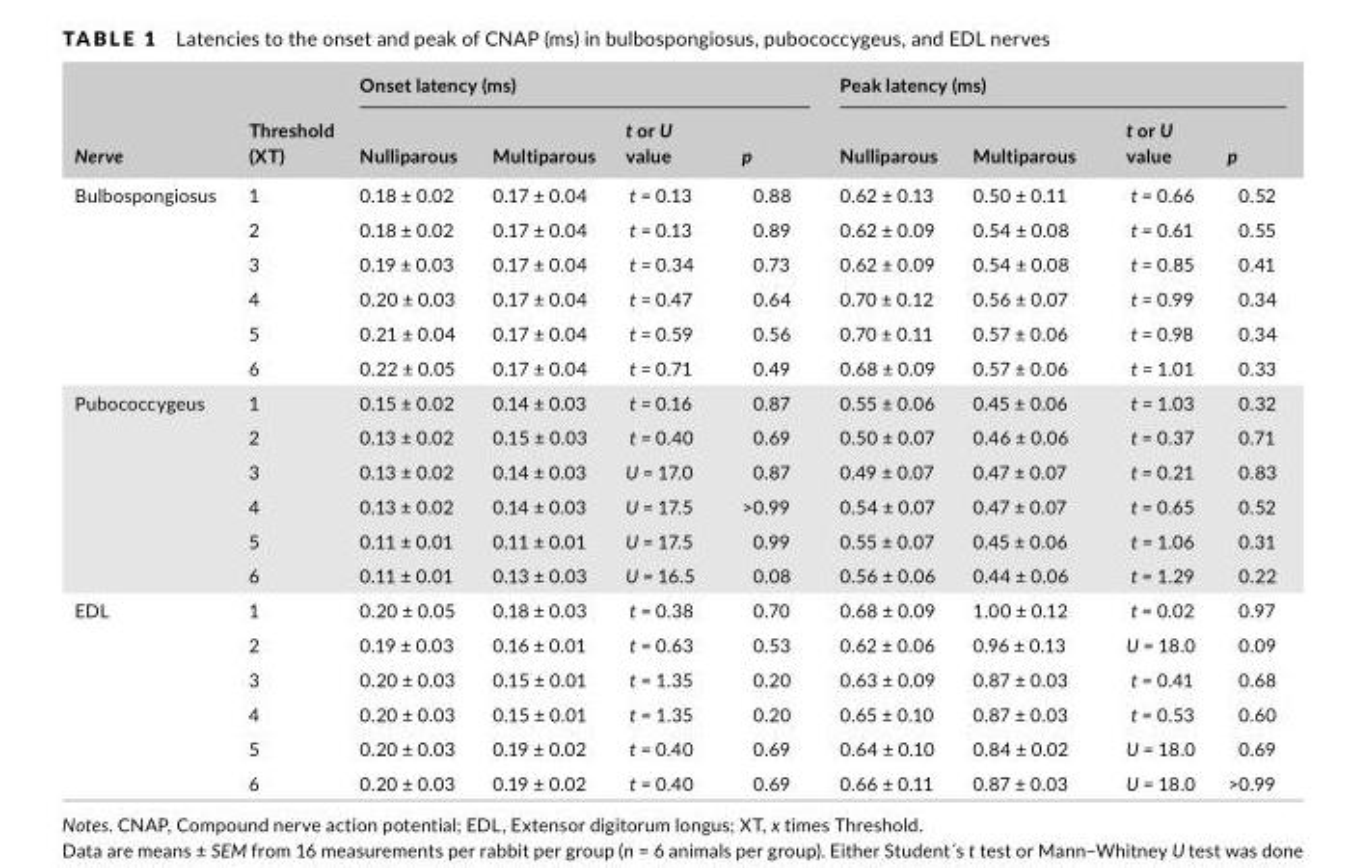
<table><thead><tr><td rowspan="2">Nerve</td><td rowspan="2">Threshold (XT)</td><td colspan="4">Onset latency (ms)</td><td colspan="4">Peak latency (ms)</td></tr><tr><td>Nulliparous</td><td>Multiparous</td><td>t or U value</td><td>p</td><td>Nulliparous</td><td>Multiparous</td><td>t or U value</td><td>p</td></tr></thead><tbody><tr><td rowspan="6">Bulbospongiosus</td><td>1</td><td>0.18 ± 0.02</td><td>0.17 ± 0.04</td><td>t = 0.13</td><td>0.88</td><td>0.62 ± 0.13</td><td>0.50 ± 0.11</td><td>t = 0.66</td><td>0.52</td></tr><tr><td>2</td><td>0.18 ± 0.02</td><td>0.17 ± 0.04</td><td>t = 0.13</td><td>0.89</td><td>0.62 ± 0.09</td><td>0.54 ± 0.08</td><td>t = 0.61</td><td>0.55</td></tr><tr><td>3</td><td>0.19 ± 0.03</td><td>0.17 ± 0.04</td><td>t = 0.34</td><td>0.73</td><td>0.62 ± 0.09</td><td>0.54 ± 0.08</td><td>t = 0.85</td><td>0.41</td></tr><tr><td>4</td><td>0.20 ± 0.03</td><td>0.17 ± 0.04</td><td>t = 0.47</td><td>0.64</td><td>0.70 ± 0.12</td><td>0.56 ± 0.07</td><td>t = 0.99</td><td>0.34</td></tr><tr><td>5</td><td>0.21 ± 0.04</td><td>0.17 ± 0.04</td><td>t = 0.59</td><td>0.56</td><td>0.70 ± 0.11</td><td>0.57 ± 0.06</td><td>t = 0.98</td><td>0.34</td></tr><tr><td>6</td><td>0.22 ± 0.05</td><td>0.17 ± 0.04</td><td>t = 0.71</td><td>0.49</td><td>0.68 ± 0.09</td><td>0.57 ± 0.06</td><td>t = 1.01</td><td>0.33</td></tr><tr><td rowspan="6">Pubococcygeus</td><td>1</td><td>0.15 ± 0.02</td><td>0.14 ± 0.03</td><td>t = 0.16</td><td>0.87</td><td>0.55 ± 0.06</td><td>0.45 ± 0.06</td><td>t = 1.03</td><td>0.32</td></tr><tr><td>2</td><td>0.13 ± 0.02</td><td>0.15 ± 0.03</td><td>t = 0.40</td><td>0.69</td><td>0.50 ± 0.07</td><td>0.46 ± 0.06</td><td>t = 0.37</td><td>0.71</td></tr><tr><td>3</td><td>0.13 ± 0.02</td><td>0.14 ± 0.03</td><td>U = 17.0</td><td>0.87</td><td>0.49 ± 0.07</td><td>0.47 ± 0.07</td><td>t = 0.21</td><td>0.83</td></tr><tr><td>4</td><td>0.13 ± 0.02</td><td>0.14 ± 0.03</td><td>U = 17.5</td><td>&gt;0.99</td><td>0.54 ± 0.07</td><td>0.47 ± 0.07</td><td>t = 0.65</td><td>0.52</td></tr><tr><td>5</td><td>0.11 ± 0.01</td><td>0.11 ± 0.01</td><td>U = 17.5</td><td>0.99</td><td>0.55 ± 0.07</td><td>0.45 ± 0.06</td><td>t = 1.06</td><td>0.31</td></tr><tr><td>6</td><td>0.11 ± 0.01</td><td>0.13 ± 0.03</td><td>U = 16.5</td><td>0.08</td><td>0.56 ± 0.06</td><td>0.44 ± 0.06</td><td>t = 1.29</td><td>0.22</td></tr><tr><td rowspan="6">EDL</td><td>1</td><td>0.20 ± 0.05</td><td>0.18 ± 0.03</td><td>t = 0.38</td><td>0.70</td><td>0.68 ± 0.09</td><td>1.00 ± 0.12</td><td>t = 0.02</td><td>0.97</td></tr><tr><td>2</td><td>0.19 ± 0.03</td><td>0.16 ± 0.01</td><td>t = 0.63</td><td>0.53</td><td>0.62 ± 0.06</td><td>0.96 ± 0.13</td><td>U = 18.0</td><td>0.09</td></tr><tr><td>3</td><td>0.20 ± 0.03</td><td>0.15 ± 0.01</td><td>t = 1.35</td><td>0.20</td><td>0.63 ± 0.09</td><td>0.87 ± 0.03</td><td>t = 0.41</td><td>0.68</td></tr><tr><td>4</td><td>0.20 ± 0.03</td><td>0.15 ± 0.01</td><td>t = 1.35</td><td>0.20</td><td>0.65 ± 0.10</td><td>0.87 ± 0.03</td><td>t = 0.53</td><td>0.60</td></tr><tr><td>5</td><td>0.20 ± 0.03</td><td>0.19 ± 0.02</td><td>t = 0.40</td><td>0.69</td><td>0.64 ± 0.10</td><td>0.84 ± 0.02</td><td>U = 18.0</td><td>0.69</td></tr><tr><td>6</td><td>0.20 ± 0.03</td><td>0.19 ± 0.02</td><td>t = 0.40</td><td>0.69</td><td>0.66 ± 0.11</td><td>0.87 ± 0.03</td><td>U = 18.0</td><td>&gt;0.99</td></tr></tbody></table>